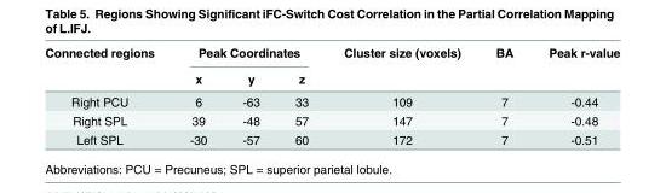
<table><thead><tr><td rowspan="2">Connected regions</td><td colspan="3">Peak Coordinates</td><td rowspan="2">Cluster size (voxels)</td><td rowspan="2">BA</td><td rowspan="2">Peak r-value</td></tr><tr><td>x</td><td>y</td><td>z</td></tr></thead><tbody><tr><td>Right PCU</td><td>6</td><td>-63</td><td>33</td><td>109</td><td>7</td><td>-0.44</td></tr><tr><td>Right SPL</td><td>39</td><td>-48</td><td>57</td><td>147</td><td>7</td><td>-0.48</td></tr><tr><td>Left SPL</td><td>-30</td><td>-57</td><td>60</td><td>172</td><td>7</td><td>-0.51</td></tr></tbody></table>